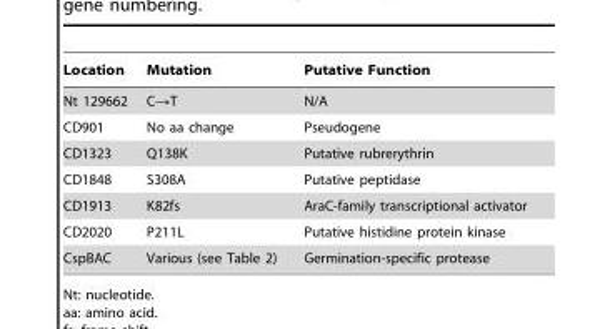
<table><thead><tr><td>Location</td><td>Mutation</td><td>Putative Function</td></tr></thead><tbody><tr><td>Nt 129662</td><td>C→T</td><td>N/A</td></tr><tr><td>CD901</td><td>No aa change</td><td>Pseudogene</td></tr><tr><td>CD1323</td><td>Q138K</td><td>Putative rubrerythrin</td></tr><tr><td>CD1848</td><td>S308A</td><td>Putative peptidase</td></tr><tr><td>CD1913</td><td>K82fs</td><td>AraC-family transcriptional activator</td></tr><tr><td>CD2020</td><td>P211L</td><td>Putative histidine protein kinase</td></tr><tr><td>CspBAC</td><td>Various (see Table 2)</td><td>Germination-specific protease</td></tr></tbody></table>